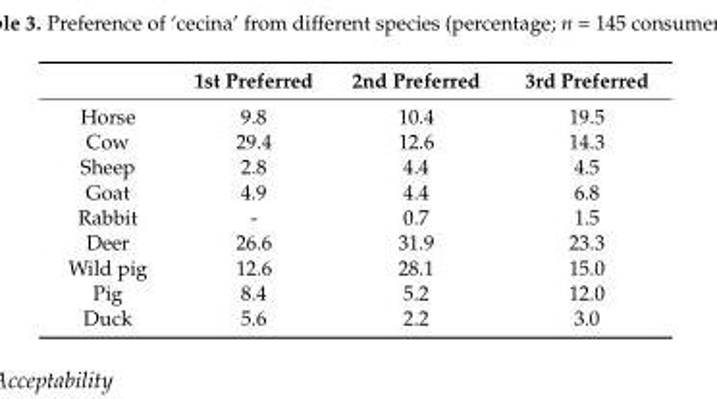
<table><thead><tr><td></td><td>1st Preferred</td><td>2nd Preferred</td><td>3rd Preferred</td></tr></thead><tbody><tr><td>Horse</td><td>9.8</td><td>10.4</td><td>19.5</td></tr><tr><td>Cow</td><td>29.4</td><td>12.6</td><td>14.3</td></tr><tr><td>Sheep</td><td>2.8</td><td>4.4</td><td>4.5</td></tr><tr><td>Goat</td><td>4.9</td><td>4.4</td><td>6.8</td></tr><tr><td>Rabbit</td><td>-</td><td>0.7</td><td>1.5</td></tr><tr><td>Deer</td><td>26.6</td><td>31.9</td><td>23.3</td></tr><tr><td>Wild pig</td><td>12.6</td><td>28.1</td><td>15.0</td></tr><tr><td>Pig</td><td>8.4</td><td>5.2</td><td>12.0</td></tr><tr><td>Duck</td><td>5.6</td><td>2.2</td><td>3.0</td></tr></tbody></table>